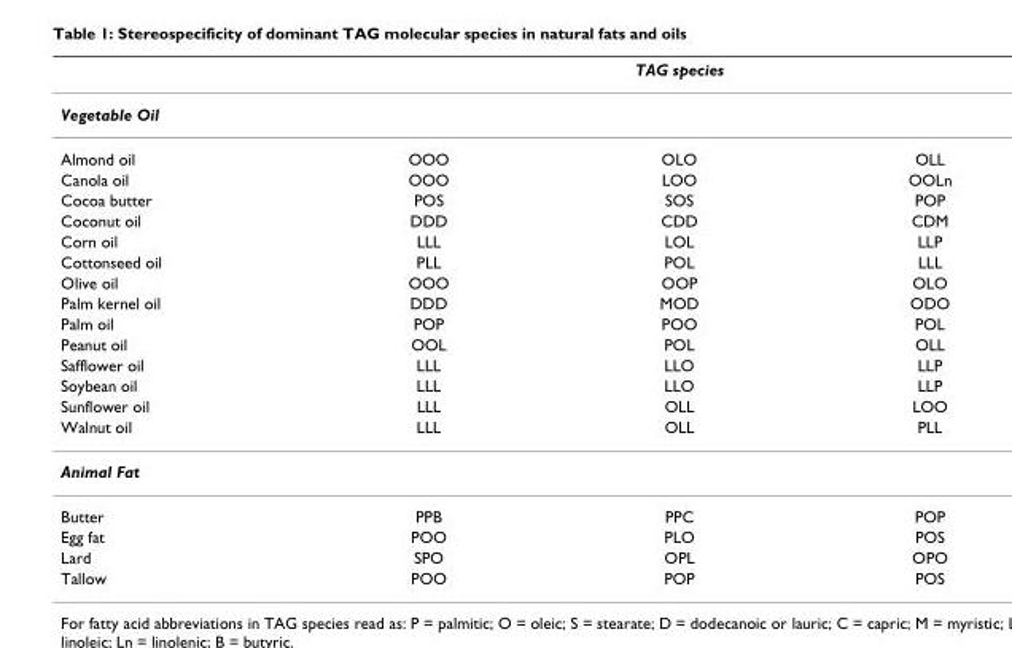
<table><thead><tr><td rowspan="2">Vegetable Oil</td><td colspan="3">TAG species</td></tr><tr><td></td><td></td><td></td></tr></thead><tbody><tr><td>Almond oil</td><td>OOO</td><td>OLO</td><td>OLL</td></tr><tr><td>Canola oil</td><td>OOO</td><td>LOO</td><td>OOLn</td></tr><tr><td>Cocoa butter</td><td>POS</td><td>SOS</td><td>POP</td></tr><tr><td>Coconut oil</td><td>DDD</td><td>CDD</td><td>CDM</td></tr><tr><td>Corn oil</td><td>LLL</td><td>LOL</td><td>LLP</td></tr><tr><td>Cottonseed oil</td><td>PLL</td><td>POL</td><td>LLL</td></tr><tr><td>Olive oil</td><td>OOO</td><td>OOP</td><td>OLO</td></tr><tr><td>Palm kernel oil</td><td>DDD</td><td>MOD</td><td>ODO</td></tr><tr><td>Palm oil</td><td>POP</td><td>POO</td><td>POL</td></tr><tr><td>Peanut oil</td><td>OOL</td><td>POL</td><td>OLL</td></tr><tr><td>Safflower oil</td><td>LLL</td><td>LLO</td><td>LLP</td></tr><tr><td>Soybean oil</td><td>LLL</td><td>LLO</td><td>LLP</td></tr><tr><td>Sunflower oil</td><td>LLL</td><td>OLL</td><td>LOO</td></tr><tr><td>Walnut oil</td><td>LLL</td><td>OLL</td><td>PLL</td></tr><tr><td colspan="4">Animal Fat</td></tr><tr><td>Butter</td><td>PPB</td><td>PPC</td><td>POP</td></tr><tr><td>Egg fat</td><td>POO</td><td>PLO</td><td>POS</td></tr><tr><td>Lard</td><td>SPO</td><td>OPL</td><td>OPO</td></tr><tr><td>Tallow</td><td>POO</td><td>POP</td><td>POS</td></tr></tbody></table>